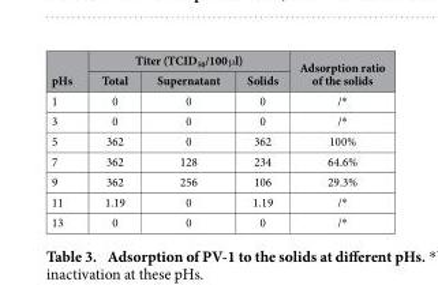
<table><thead><tr><td rowspan="2">pHs</td><td colspan="3">Titer (TCID<sub>50</sub>/100 μ l)</td><td rowspan="2">Adsorption ratio of the solids</td></tr><tr><td>Total</td><td>Supernatant</td><td>Solids</td></tr></thead><tbody><tr><td>1</td><td>0</td><td>0</td><td>0</td><td>/*</td></tr><tr><td>3</td><td>0</td><td>0</td><td>0</td><td>/*</td></tr><tr><td>5</td><td>362</td><td>0</td><td>362</td><td>100%</td></tr><tr><td>7</td><td>362</td><td>128</td><td>234</td><td>64.6%</td></tr><tr><td>9</td><td>362</td><td>256</td><td>106</td><td>29.3%</td></tr><tr><td>11</td><td>1.19</td><td>0</td><td>1.19</td><td>/*</td></tr><tr><td>13</td><td>0</td><td>0</td><td>0</td><td>/*</td></tr></tbody></table>